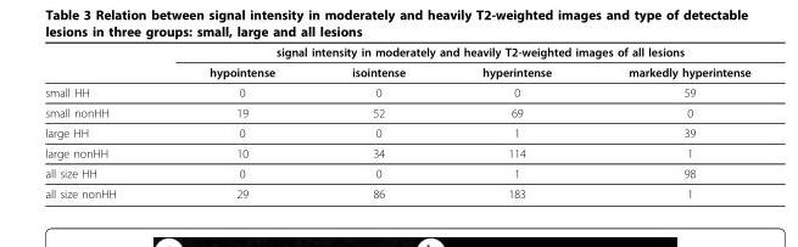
<table><thead><tr><td rowspan="2"></td><td colspan="4">signal intensity in moderately and heavily T2-weighted images of all lesions</td></tr><tr><td>hypointense</td><td>isointense</td><td>hyperintense</td><td>markedly hyperintense</td></tr></thead><tbody><tr><td>small HH</td><td>0</td><td>0</td><td>0</td><td>59</td></tr><tr><td>small nonHH</td><td>19</td><td>52</td><td>69</td><td>0</td></tr><tr><td>large HH</td><td>0</td><td>0</td><td>1</td><td>39</td></tr><tr><td>large nonHH</td><td>10</td><td>34</td><td>114</td><td>1</td></tr><tr><td>all size HH</td><td>0</td><td>0</td><td>1</td><td>98</td></tr><tr><td>all size nonHH</td><td>29</td><td>86</td><td>183</td><td>1</td></tr></tbody></table>